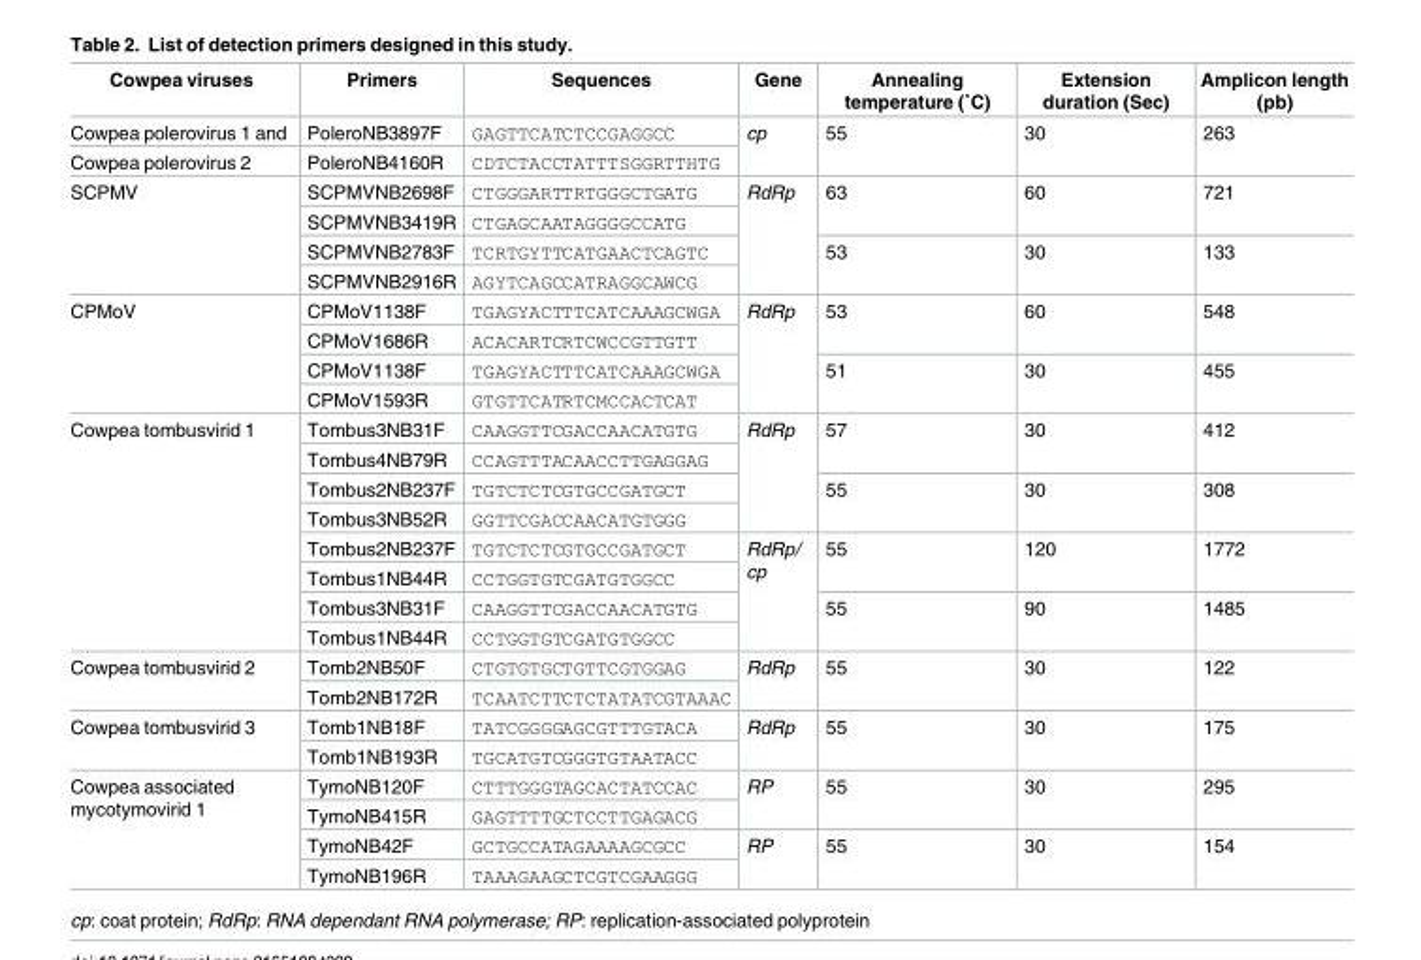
<table><thead><tr><td>Cowpea viruses</td><td>Primers</td><td>Sequences</td><td>Gene</td><td>Annealing temperature (˚C)</td><td>Extension duration (Sec)</td><td>Amplicon length (pb)</td></tr></thead><tbody><tr><td>Cowpea polerovirus 1 and</td><td>PoleroNB3897F</td><td>GAGTTCATCTCCGAGGCC</td><td rowspan="2">cp</td><td rowspan="2">55</td><td rowspan="2">30</td><td rowspan="2">263</td></tr><tr><td>Cowpea polerovirus 2</td><td>PoleroNB4160R</td><td>CDTCTACCTATTTSGGRTTHTG</td></tr><tr><td rowspan="4">SCPMV</td><td>SCPMVNB2698F</td><td>CTGGGARTTRTGGGCTGATG</td><td rowspan="4">RdRp</td><td rowspan="2">63</td><td rowspan="2">60</td><td rowspan="2">721</td></tr><tr><td>SCPMVNB3419R</td><td>CTGAGCAATAGGGGCCATG</td></tr><tr><td>SCPMVNB2783F</td><td>TCRTGYTTCATGAACTCAGTC</td><td rowspan="2">53</td><td rowspan="2">30</td><td rowspan="2">133</td></tr><tr><td>SCPMVNB2916R</td><td>AGYTCAGCCATRAGGCAWCG</td></tr><tr><td rowspan="4">CPMoV</td><td>CPMoV1138F</td><td>TGAGYACTTTCATCAAAGCWGA</td><td rowspan="4">RdRp</td><td rowspan="2">53</td><td rowspan="2">60</td><td rowspan="2">548</td></tr><tr><td>CPMoV1686R</td><td>ACACARTCRTCWCCGTTGTT</td></tr><tr><td>CPMoV1138F</td><td>TGAGYACTTTCATCAAAGCWGA</td><td rowspan="2">51</td><td rowspan="2">30</td><td rowspan="2">455</td></tr><tr><td>CPMoV1593R</td><td>GTGTTCATRTCMCCACTCAT</td></tr><tr><td rowspan="8">Cowpea tombusvirid 1</td><td>Tombus3NB31F</td><td>CAAGGTTCGACCAACATGTG</td><td rowspan="4">RdRp</td><td rowspan="2">57</td><td rowspan="2">30</td><td rowspan="2">412</td></tr><tr><td>Tombus4NB79R</td><td>CCAGTTTACAACCTTGAGGAG</td></tr><tr><td>Tombus2NB237F</td><td>TGTCTCTCGTGCCGATGCT</td><td rowspan="2">55</td><td rowspan="2">30</td><td rowspan="2">308</td></tr><tr><td>Tombus3NB52R</td><td>GGTTCGACCAACATGTGGG</td></tr><tr><td>Tombus2NB237F</td><td>TGTCTCTCGTGCCGATGCT</td><td rowspan="4">RdRp/ cp</td><td rowspan="2">55</td><td rowspan="2">120</td><td rowspan="2">1772</td></tr><tr><td>Tombus1NB44R</td><td>CCTGGTGTCGATGTGGCC</td></tr><tr><td>Tombus3NB31F</td><td>CAAGGTTCGACCAACATGTG</td><td rowspan="2">55</td><td rowspan="2">90</td><td rowspan="2">1485</td></tr><tr><td>Tombus1NB44R</td><td>CCTGGTGTCGATGTGGCC</td></tr><tr><td rowspan="2">Cowpea tombusvirid 2</td><td>Tomb2NB50F</td><td>CTGTGTGCTGTTCGTGGAG</td><td rowspan="2">RdRp</td><td rowspan="2">55</td><td rowspan="2">30</td><td rowspan="2">122</td></tr><tr><td>Tomb2NB172R</td><td>TCAATCTTCTCTATATCGTAAAC</td></tr><tr><td rowspan="2">Cowpea tombusvirid 3</td><td>Tomb1NB18F</td><td>TATCGGGGAGCGTTTGTACA</td><td rowspan="2">RdRp</td><td rowspan="2">55</td><td rowspan="2">30</td><td rowspan="2">175</td></tr><tr><td>Tomb1NB193R</td><td>TGCATGTCGGGTGTAATACC</td></tr><tr><td rowspan="4">Cowpea associated mycotymovirid 1</td><td>TymoNB120F</td><td>CTTTGGGTAGCACTATCCAC</td><td rowspan="2">RP</td><td rowspan="2">55</td><td rowspan="2">30</td><td rowspan="2">295</td></tr><tr><td>TymoNB415R</td><td>GAGTTTTGCTCCTTGAGACG</td></tr><tr><td>TymoNB42F</td><td>GCTGCCATAGAAAAGCGCC</td><td rowspan="2">RP</td><td rowspan="2">55</td><td rowspan="2">30</td><td rowspan="2">154</td></tr><tr><td>TymoNB196R</td><td>TAAAGAAGCTCGTCGAAGGG</td></tr></tbody></table>